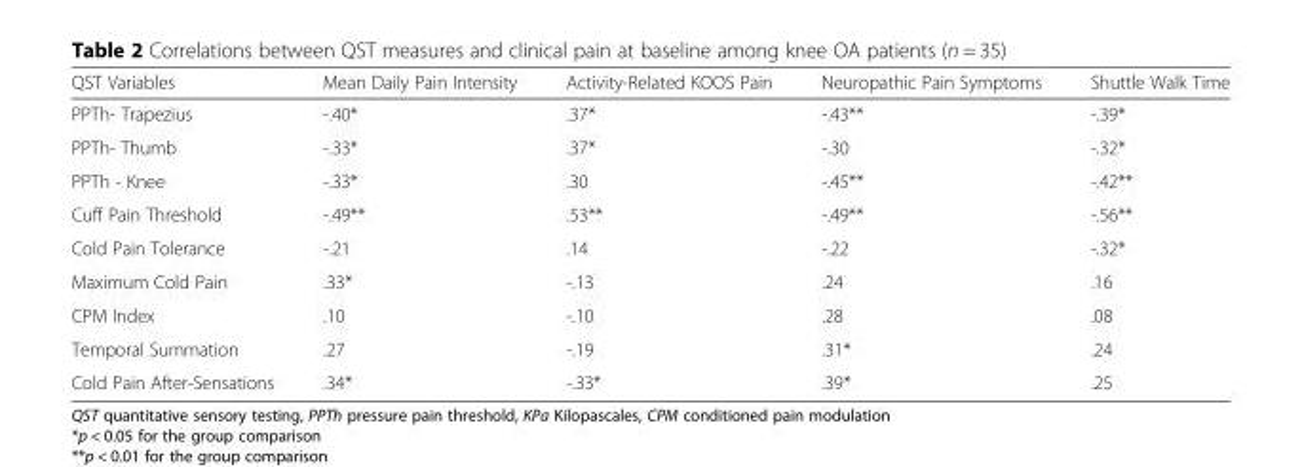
<table><thead><tr><td>QST Variables</td><td>Mean Daily Pain Intensity</td><td>Activity-Related KOOS Pain</td><td>Neuropathic Pain Symptoms</td><td>Shuttle Walk Time</td></tr></thead><tbody><tr><td>PPTh- Trapezius</td><td>-.40*</td><td>.37*</td><td>-.43**</td><td>-.39*</td></tr><tr><td>PPTh- Thumb</td><td>-.33*</td><td>.37*</td><td>-.30</td><td>-.32*</td></tr><tr><td>PPTh - Knee</td><td>-.33*</td><td>.30</td><td>-.45**</td><td>-.42**</td></tr><tr><td>Cuff Pain Threshold</td><td>-.49**</td><td>.53**</td><td>-.49**</td><td>-.56**</td></tr><tr><td>Cold Pain Tolerance</td><td>-.21</td><td>.14</td><td>-.22</td><td>-.32*</td></tr><tr><td>Maximum Cold Pain</td><td>.33*</td><td>-.13</td><td>.24</td><td>.16</td></tr><tr><td>CPM Index</td><td>.10</td><td>-.10</td><td>.28</td><td>.08</td></tr><tr><td>Temporal Summation</td><td>.27</td><td>-.19</td><td>.31*</td><td>.24</td></tr><tr><td>Cold Pain After-Sensations</td><td>.34*</td><td>-.33*</td><td>.39*</td><td>.25</td></tr></tbody></table>